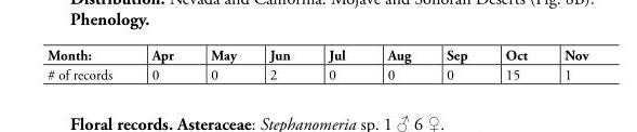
<table><thead><tr><td>Month:</td><td>Apr</td><td>May</td><td>Jun</td><td>Jul</td><td>Aug</td><td>Sep</td><td>Oct</td><td>Nov</td></tr></thead><tbody><tr><td># of records</td><td>0</td><td>0</td><td>2</td><td>0</td><td>0</td><td>0</td><td>15</td><td>1</td></tr></tbody></table>